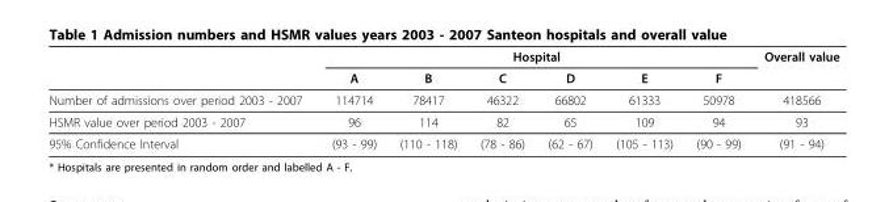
<table><thead><tr><td rowspan="2"></td><td colspan="6">Hospital</td><td rowspan="2">Overall value</td></tr><tr><td>A</td><td>B</td><td>C</td><td>D</td><td>E</td><td>F</td></tr></thead><tbody><tr><td>Number of admissions over period 2003 - 2007</td><td>114714</td><td>78417</td><td>46322</td><td>66802</td><td>61333</td><td>50978</td><td>418566</td></tr><tr><td>HSMR value over period 2003 - 2007</td><td>96</td><td>114</td><td>82</td><td>65</td><td>109</td><td>94</td><td>93</td></tr><tr><td>95% Confidence Interval</td><td>(93 - 99)</td><td>(110 - 118)</td><td>(78 - 86)</td><td>(62 - 67)</td><td>(105 - 113)</td><td>(90 - 99)</td><td>(91 - 94)</td></tr></tbody></table>